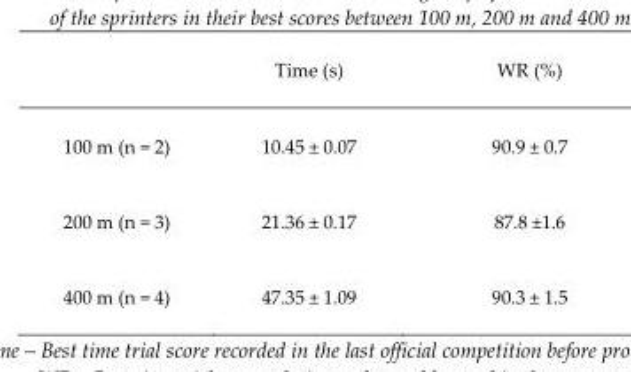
<table><thead><tr><td></td><td>Time (s)</td><td>WR (%)</td></tr></thead><tbody><tr><td>100 m (n = 2)</td><td>10.45 ± 0.07</td><td>90.9 ± 0.7</td></tr><tr><td>200 m (n = 3)</td><td>21.36 ± 0.17</td><td>87.8 ±1.6</td></tr><tr><td>400 m (n = 4)</td><td>47.35 ± 1.09</td><td>90.3 ± 1.5</td></tr></tbody></table>